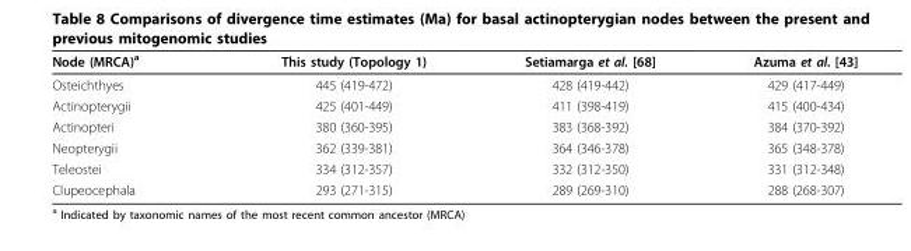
<table><thead><tr><td>Node (MRCA)<sup>a</sup></td><td>This study (Topology 1)</td><td>Setiamarga et al. [68]</td><td>Azuma et al. [43]</td></tr></thead><tbody><tr><td>Osteichthyes</td><td>445 (419-472)</td><td>428 (419-442)</td><td>429 (417-449)</td></tr><tr><td>Actinopterygii</td><td>425 (401-449)</td><td>411 (398-419)</td><td>415 (400-434)</td></tr><tr><td>Actinopteri</td><td>380 (360-395)</td><td>383 (368-392)</td><td>384 (370-392)</td></tr><tr><td>Neopterygii</td><td>362 (339-381)</td><td>364 (346-378)</td><td>365 (348-378)</td></tr><tr><td>Teleostei</td><td>334 (312-357)</td><td>332 (312-350)</td><td>331 (312-348)</td></tr><tr><td>Clupeocephala</td><td>293 (271-315)</td><td>289 (269-310)</td><td>288 (268-307)</td></tr></tbody></table>